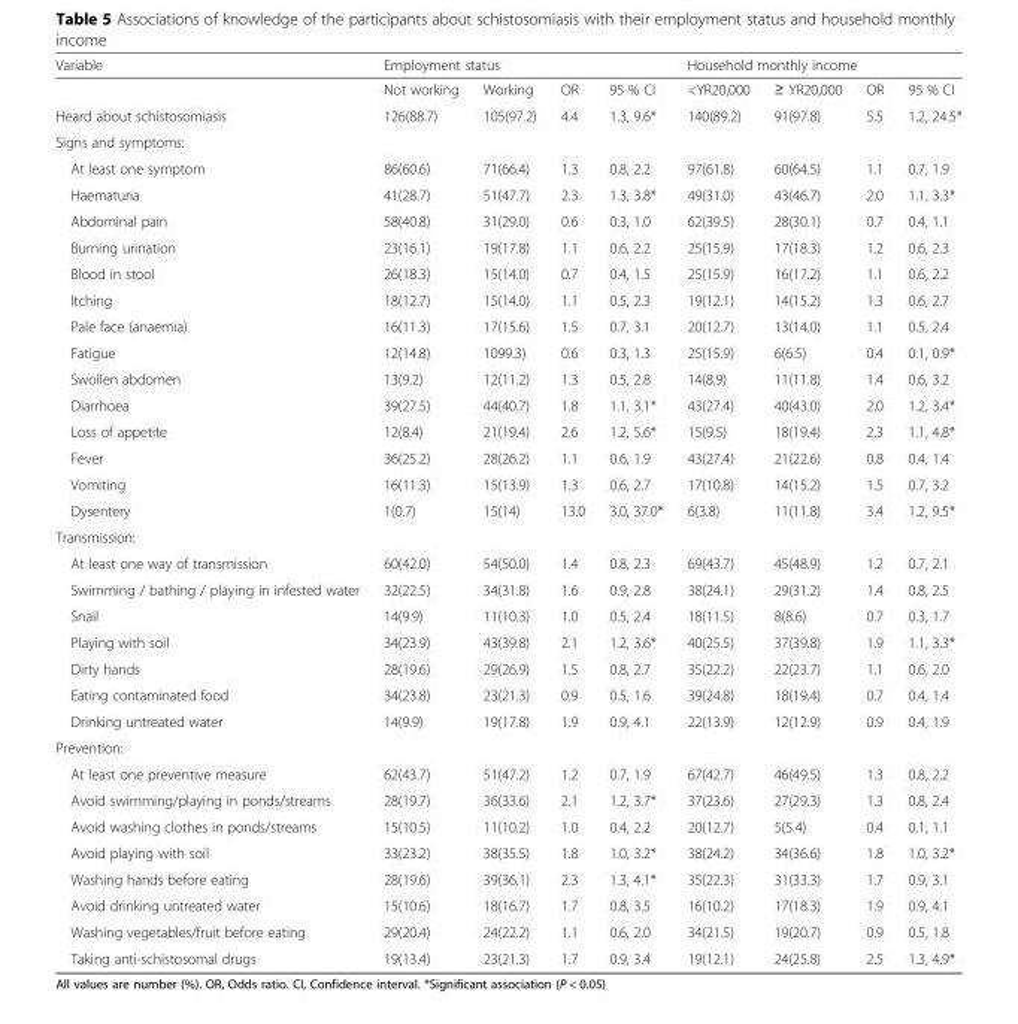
<table><thead><tr><td rowspan="2">Variable</td><td colspan="2">Employment status</td><td rowspan="2">OR</td><td rowspan="2">95 % CI</td><td colspan="3">Household monthly income</td><td rowspan="2">95 % CI</td></tr><tr><td>Not working</td><td>Working</td><td>&lt;YR20,000</td><td>≥ YR20,000</td><td>OR</td></tr></thead><tbody><tr><td>Heard about schistosomiasis</td><td>126(88.7)</td><td>105(97.2)</td><td>4.4</td><td>1.3, 9.6*</td><td>140(89.2)</td><td>91(97.8)</td><td>5.5</td><td>1.2, 24.5*</td></tr><tr><td colspan="9">Signs and symptoms:</td></tr><tr><td>At least one symptom</td><td>86(60.6)</td><td>71(66.4)</td><td>1.3</td><td>0.8, 2.2</td><td>97(61.8)</td><td>60(64.5)</td><td>1.1</td><td>0.7, 1.9</td></tr><tr><td>Haematuria</td><td>41(28.7)</td><td>51(47.7)</td><td>2.3</td><td>1.3, 3.8*</td><td>49(31.0)</td><td>43(46.7)</td><td>2.0</td><td>1.1, 3.3*</td></tr><tr><td>Abdominal pain</td><td>58(40.8)</td><td>31(29.0)</td><td>0.6</td><td>0.3, 1.0</td><td>62(39.5)</td><td>28(30.1)</td><td>0.7</td><td>0.4, 1.1</td></tr><tr><td>Burning urination</td><td>23(16.1)</td><td>19(17.8)</td><td>1.1</td><td>0.6, 2.2</td><td>25(15.9)</td><td>17(18.3)</td><td>1.2</td><td>0.6, 2.3</td></tr><tr><td>Blood in stool</td><td>26(18.3)</td><td>15(14.0)</td><td>0.7</td><td>0.4, 1.5</td><td>25(15.9)</td><td>16(17.2)</td><td>1.1</td><td>0.6, 2.2</td></tr><tr><td>Itching</td><td>18(12.7)</td><td>15(14.0)</td><td>1.1</td><td>0.5, 2.3</td><td>19(12.1)</td><td>14(15.2)</td><td>1.3</td><td>0.6, 2.7</td></tr><tr><td>Pale face (anaemia)</td><td>16(11.3)</td><td>17(15.6)</td><td>1.5</td><td>0.7, 3.1</td><td>20(12.7)</td><td>13(14.0)</td><td>1.1</td><td>0.5, 2.4</td></tr><tr><td>Fatigue</td><td>12(14.8)</td><td>1099.3)</td><td>0.6</td><td>0.3, 1.3</td><td>25(15.9)</td><td>6(6.5)</td><td>0.4</td><td>0.1, 0.9*</td></tr><tr><td>Swollen abdomen</td><td>13(9.2)</td><td>12(11.2)</td><td>1.3</td><td>0.5, 2.8</td><td>14(8.9)</td><td>11(11.8)</td><td>1.4</td><td>0.6, 3.2</td></tr><tr><td>Diarrhoea</td><td>39(27.5)</td><td>44(40.7)</td><td>1.8</td><td>1.1, 3.1*</td><td>43(27.4)</td><td>40(43.0)</td><td>2.0</td><td>1.2, 3.4*</td></tr><tr><td>Loss of appetite</td><td>12(8.4)</td><td>21(19.4)</td><td>2.6</td><td>1.2, 5.6*</td><td>15(9.5)</td><td>18(19.4)</td><td>2.3</td><td>1.1, 4.8*</td></tr><tr><td>Fever</td><td>36(25.2)</td><td>28(26.2)</td><td>1.1</td><td>0.6, 1.9</td><td>43(27.4)</td><td>21(22.6)</td><td>0.8</td><td>0.4, 1.4</td></tr><tr><td>Vomiting</td><td>16(11.3)</td><td>15(13.9)</td><td>1.3</td><td>0.6, 2.7</td><td>17(10.8)</td><td>14(15.2)</td><td>1.5</td><td>0.7, 3.2</td></tr><tr><td>Dysentery</td><td>1(0.7)</td><td>15(14)</td><td>13.0</td><td>3.0, 37.0*</td><td>6(3.8)</td><td>11(11.8)</td><td>3.4</td><td>1.2, 9.5*</td></tr><tr><td colspan="9">Transmission:</td></tr><tr><td>At least one way of transmission</td><td>60(42.0)</td><td>54(50.0)</td><td>1.4</td><td>0.8, 2.3</td><td>69(43.7)</td><td>45(48.9)</td><td>1.2</td><td>0.7, 2.1</td></tr><tr><td>Swimming / bathing / playing in infested water</td><td>32(22.5)</td><td>34(31.8)</td><td>1.6</td><td>0.9, 2.8</td><td>38(24.1)</td><td>29(31.2)</td><td>1.4</td><td>0.8, 2.5</td></tr><tr><td>Snail</td><td>14(9.9)</td><td>11(10.3)</td><td>1.0</td><td>0.5, 2.4</td><td>18(11.5)</td><td>8(8.6)</td><td>0.7</td><td>0.3, 1.7</td></tr><tr><td>Playing with soil</td><td>34(23.9)</td><td>43(39.8)</td><td>2.1</td><td>1.2, 3.6*</td><td>40(25.5)</td><td>37(39.8)</td><td>1.9</td><td>1.1, 3.3*</td></tr><tr><td>Dirty hands</td><td>28(19.6)</td><td>29(26.9)</td><td>1.5</td><td>0.8, 2.7</td><td>35(22.2)</td><td>22(23.7)</td><td>1.1</td><td>0.6, 2.0</td></tr><tr><td>Eating contaminated food</td><td>34(23.8)</td><td>23(21.3)</td><td>0.9</td><td>0.5, 1.6</td><td>39(24.8)</td><td>18(19.4)</td><td>0.7</td><td>0.4, 1.4</td></tr><tr><td>Drinking untreated water</td><td>14(9.9)</td><td>19(17.8)</td><td>1.9</td><td>0.9, 4.1</td><td>22(13.9)</td><td>12(12.9)</td><td>0.9</td><td>0.4, 1.9</td></tr><tr><td colspan="9">Prevention:</td></tr><tr><td>At least one preventive measure</td><td>62(43.7)</td><td>51(47.2)</td><td>1.2</td><td>0.7, 1.9</td><td>67(42.7)</td><td>46(49.5)</td><td>1.3</td><td>0.8, 2.2</td></tr><tr><td>Avoid swimming/playing in ponds/streams</td><td>28(19.7)</td><td>36(33.6)</td><td>2.1</td><td>1.2, 3.7*</td><td>37(23.6)</td><td>27(29.3)</td><td>1.3</td><td>0.8, 2.4</td></tr><tr><td>Avoid washing clothes in ponds/streams</td><td>15(10.5)</td><td>11(10.2)</td><td>1.0</td><td>0.4, 2.2</td><td>20(12.7)</td><td>5(5.4)</td><td>0.4</td><td>0.1, 1.1</td></tr><tr><td>Avoid playing with soil</td><td>33(23.2)</td><td>38(35.5)</td><td>1.8</td><td>1.0, 3.2*</td><td>38(24.2)</td><td>34(36.6)</td><td>1.8</td><td>1.0, 3.2*</td></tr><tr><td>Washing hands before eating</td><td>28(19.6)</td><td>39(36.1)</td><td>2.3</td><td>1.3, 4.1*</td><td>35(22.3)</td><td>31(33.3)</td><td>1.7</td><td>0.9, 3.1</td></tr><tr><td>Avoid drinking untreated water</td><td>15(10.6)</td><td>18(16.7)</td><td>1.7</td><td>0.8, 3.5</td><td>16(10.2)</td><td>17(18.3)</td><td>1.9</td><td>0.9, 4.1</td></tr><tr><td>Washing vegetables/fruit before eating</td><td>29(20.4)</td><td>24(22.2)</td><td>1.1</td><td>0.6, 2.0</td><td>34(21.5)</td><td>19(20.7)</td><td>0.9</td><td>0.5, 1.8</td></tr><tr><td>Taking anti-schistosomal drugs</td><td>19(13.4)</td><td>23(21.3)</td><td>1.7</td><td>0.9, 3.4</td><td>19(12.1)</td><td>24(25.8)</td><td>2.5</td><td>1.3, 4.9*</td></tr></tbody></table>